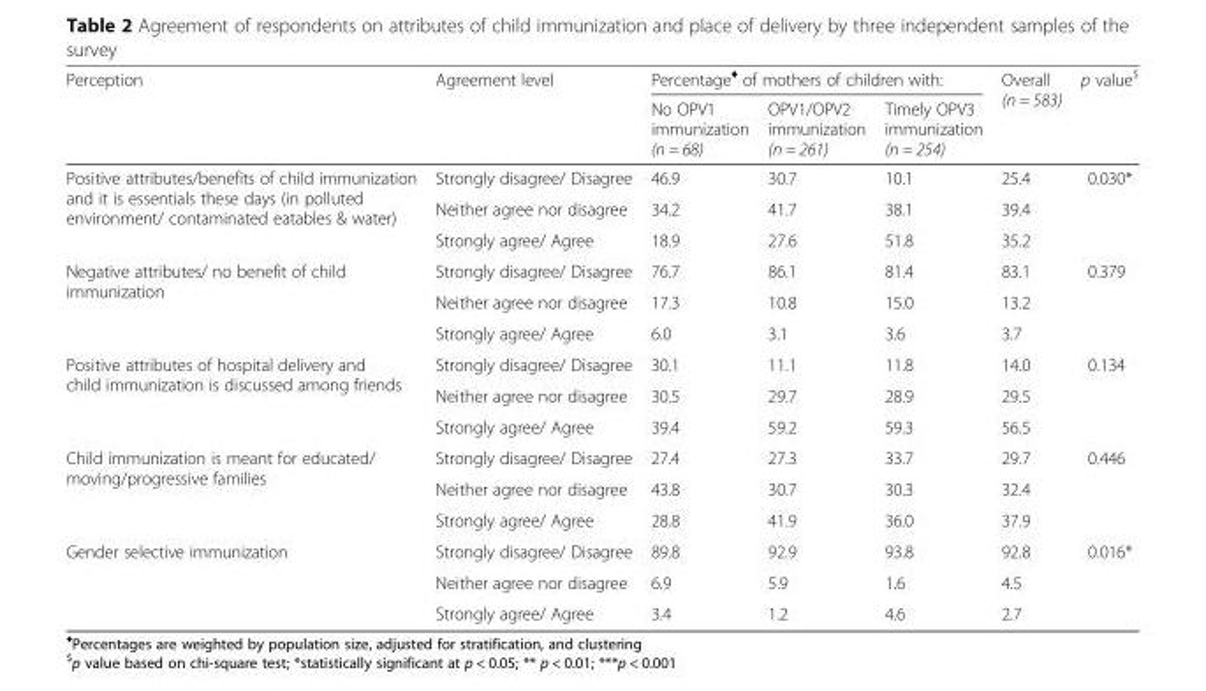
<table><thead><tr><td rowspan="2">Perception</td><td rowspan="2">Agreement level</td><td colspan="3">Percentage<sup>♦</sup> of mothers of children with:</td><td rowspan="2">Overall (n = 583)</td><td rowspan="2">p value<sup>$</sup></td></tr><tr><td>No OPV1 immunization (n = 68)</td><td>OPV1/OPV2 immunization (n = 261)</td><td>Timely OPV3 immunization (n = 254)</td></tr></thead><tbody><tr><td rowspan="3">Positive attributes/benefits of child immunization and it is essentials these days (in polluted environment/ contaminated eatables &amp; water)</td><td>Strongly disagree/ Disagree</td><td>46.9</td><td>30.7</td><td>10.1</td><td>25.4</td><td>0.030*</td></tr><tr><td>Neither agree nor disagree</td><td>34.2</td><td>41.7</td><td>38.1</td><td>39.4</td><td></td></tr><tr><td>Strongly agree/ Agree</td><td>18.9</td><td>27.6</td><td>51.8</td><td>35.2</td><td></td></tr><tr><td rowspan="3">Negative attributes/ no benefit of child immunization</td><td>Strongly disagree/ Disagree</td><td>76.7</td><td>86.1</td><td>81.4</td><td>83.1</td><td>0.379</td></tr><tr><td>Neither agree nor disagree</td><td>17.3</td><td>10.8</td><td>15.0</td><td>13.2</td><td></td></tr><tr><td>Strongly agree/ Agree</td><td>6.0</td><td>3.1</td><td>3.6</td><td>3.7</td><td></td></tr><tr><td rowspan="3">Positive attributes of hospital delivery and child immunization is discussed among friends</td><td>Strongly disagree/ Disagree</td><td>30.1</td><td>11.1</td><td>11.8</td><td>14.0</td><td>0.134</td></tr><tr><td>Neither agree nor disagree</td><td>30.5</td><td>29.7</td><td>28.9</td><td>29.5</td><td></td></tr><tr><td>Strongly agree/ Agree</td><td>39.4</td><td>59.2</td><td>59.3</td><td>56.5</td><td></td></tr><tr><td rowspan="3">Child immunization is meant for educated/ moving/progressive families</td><td>Strongly disagree/ Disagree</td><td>27.4</td><td>27.3</td><td>33.7</td><td>29.7</td><td>0.446</td></tr><tr><td>Neither agree nor disagree</td><td>43.8</td><td>30.7</td><td>30.3</td><td>32.4</td><td></td></tr><tr><td>Strongly agree/ Agree</td><td>28.8</td><td>41.9</td><td>36.0</td><td>37.9</td><td></td></tr><tr><td rowspan="3">Gender selective immunization</td><td>Strongly disagree/ Disagree</td><td>89.8</td><td>92.9</td><td>93.8</td><td>92.8</td><td>0.016*</td></tr><tr><td>Neither agree nor disagree</td><td>6.9</td><td>5.9</td><td>1.6</td><td>4.5</td><td></td></tr><tr><td>Strongly agree/ Agree</td><td>3.4</td><td>1.2</td><td>4.6</td><td>2.7</td><td></td></tr></tbody></table>